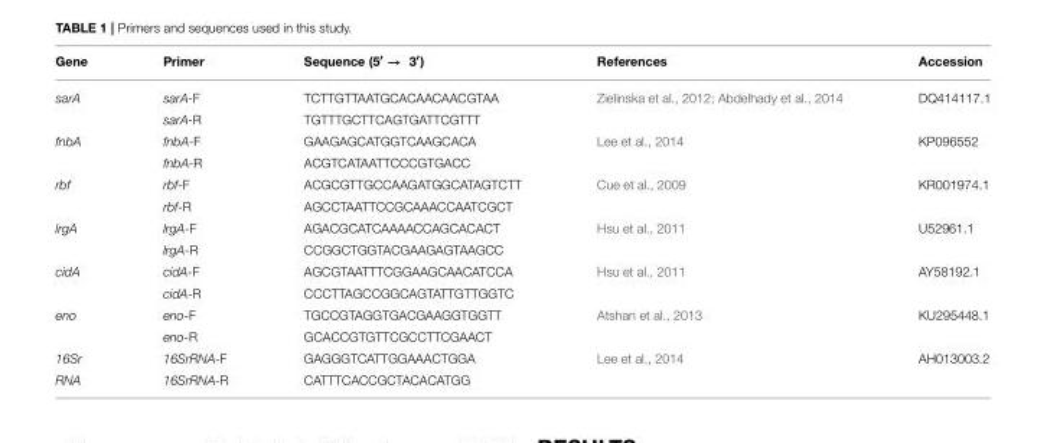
<table><thead><tr><td>Gene</td><td>Primer</td><td>Sequence (5′ → 3′)</td><td>References</td><td>Accession</td></tr></thead><tbody><tr><td rowspan="2">sarA</td><td>sarA-F</td><td>TCTTGTTAATGCACAACAACGTAA</td><td>Zielinska et al., 2012; Abdelhady et al., 2014</td><td>DQ414117.1</td></tr><tr><td>sarA-R</td><td>TGTTTGCTTCAGTGATTCGTTT</td><td></td><td></td></tr><tr><td rowspan="2">fnbA</td><td>fnbA-F</td><td>GAAGAGCATGGTCAAGCACA</td><td>Lee et al., 2014</td><td>KP096552</td></tr><tr><td>fnbA-R</td><td>ACGTCATAATTCCCGTGACC</td><td></td><td></td></tr><tr><td rowspan="2">rbf</td><td>rbf-F</td><td>ACGCGTTGCCAAGATGGCATAGTCTT</td><td>Cue et al., 2009</td><td>KR001974.1</td></tr><tr><td>rbf-R</td><td>AGCCTAATTCCGCAAACCAATCGCT</td><td></td><td></td></tr><tr><td rowspan="2">lrgA</td><td>lrgA-F</td><td>AGACGCATCAAAACCAGCACACT</td><td>Hsu et al., 2011</td><td>U52961.1</td></tr><tr><td>lrgA-R</td><td>CCGGCTGGTACGAAGAGTAAGCC</td><td></td><td></td></tr><tr><td rowspan="2">cidA</td><td>cidA-F</td><td>AGCGTAATTTCGGAAGCAACATCCA</td><td>Hsu et al., 2011</td><td>AY58192.1</td></tr><tr><td>cidA-R</td><td>CCCTTAGCCGGCAGTATTGTTGGTC</td><td></td><td></td></tr><tr><td rowspan="2">eno</td><td>eno-F</td><td>TGCCGTAGGTGACGAAGGTGGTT</td><td>Atshan et al., 2013</td><td>KU295448.1</td></tr><tr><td>eno-R</td><td>GCACCGTGTTCGCCTTCGAACT</td><td></td><td></td></tr><tr><td>16Sr</td><td>16SrRNA-F</td><td>GAGGGTCATTGGAAACTGGA</td><td>Lee et al., 2014</td><td>AH013003.2</td></tr><tr><td>RNA</td><td>16SrRNA-R</td><td>CATTTCACCGCTACACATGG</td><td></td><td></td></tr></tbody></table>